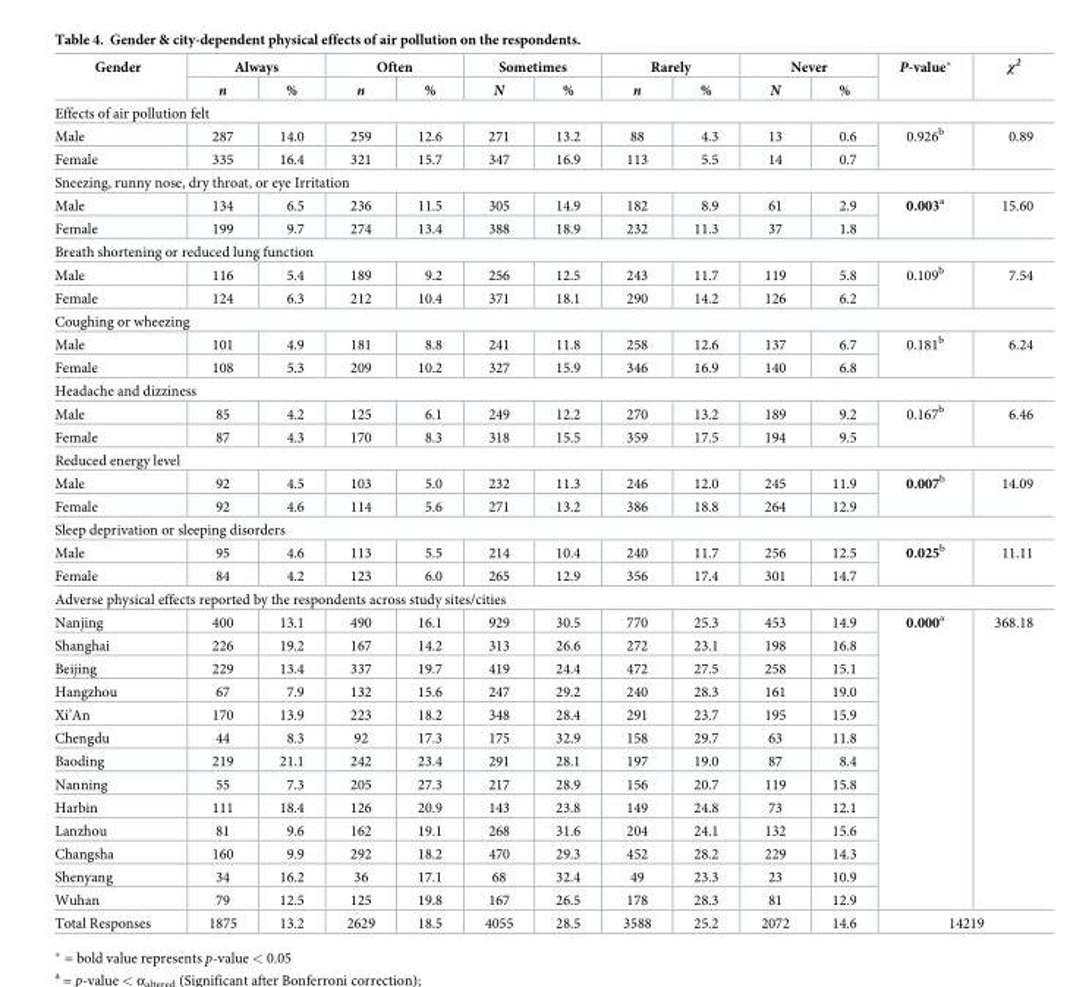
<table><thead><tr><td rowspan="2">Gender</td><td colspan="2">Always</td><td colspan="2">Often</td><td colspan="2">Sometimes</td><td colspan="2">Rarely</td><td colspan="2">Never</td><td rowspan="2">P-value*</td><td rowspan="2">χ<sup>2</sup></td></tr><tr><td>n</td><td>%</td><td>n</td><td>%</td><td>N</td><td>%</td><td>n</td><td>%</td><td>N</td><td>%</td></tr></thead><tbody><tr><td colspan="13">Effects of air pollution felt</td></tr><tr><td>Male</td><td>287</td><td>14.0</td><td>259</td><td>12.6</td><td>271</td><td>13.2</td><td>88</td><td>4.3</td><td>13</td><td>0.6</td><td rowspan="2">0.926<sup>b</sup></td><td rowspan="2">0.89</td></tr><tr><td>Female</td><td>335</td><td>16.4</td><td>321</td><td>15.7</td><td>347</td><td>16.9</td><td>113</td><td>5.5</td><td>14</td><td>0.7</td></tr><tr><td colspan="13">Sneezing, runny nose, dry throat, or eye Irritation</td></tr><tr><td>Male</td><td>134</td><td>6.5</td><td>236</td><td>11.5</td><td>305</td><td>14.9</td><td>182</td><td>8.9</td><td>61</td><td>2.9</td><td rowspan="2">0.003<sup>a</sup></td><td rowspan="2">15.60</td></tr><tr><td>Female</td><td>199</td><td>9.7</td><td>274</td><td>13.4</td><td>388</td><td>18.9</td><td>232</td><td>11.3</td><td>37</td><td>1.8</td></tr><tr><td colspan="13">Breath shortening or reduced lung function</td></tr><tr><td>Male</td><td>116</td><td>5.4</td><td>189</td><td>9.2</td><td>256</td><td>12.5</td><td>243</td><td>11.7</td><td>119</td><td>5.8</td><td rowspan="2">0.109<sup>b</sup></td><td rowspan="2">7.54</td></tr><tr><td>Female</td><td>124</td><td>6.3</td><td>212</td><td>10.4</td><td>371</td><td>18.1</td><td>290</td><td>14.2</td><td>126</td><td>6.2</td></tr><tr><td colspan="13">Coughing or wheezing</td></tr><tr><td>Male</td><td>101</td><td>4.9</td><td>181</td><td>8.8</td><td>241</td><td>11.8</td><td>258</td><td>12.6</td><td>137</td><td>6.7</td><td rowspan="2">0.181<sup>b</sup></td><td rowspan="2">6.24</td></tr><tr><td>Female</td><td>108</td><td>5.3</td><td>209</td><td>10.2</td><td>327</td><td>15.9</td><td>346</td><td>16.9</td><td>140</td><td>6.8</td></tr><tr><td colspan="13">Headache and dizziness</td></tr><tr><td>Male</td><td>85</td><td>4.2</td><td>125</td><td>6.1</td><td>249</td><td>12.2</td><td>270</td><td>13.2</td><td>189</td><td>9.2</td><td rowspan="2">0.167<sup>b</sup></td><td rowspan="2">6.46</td></tr><tr><td>Female</td><td>87</td><td>4.3</td><td>170</td><td>8.3</td><td>318</td><td>15.5</td><td>359</td><td>17.5</td><td>194</td><td>9.5</td></tr><tr><td colspan="13">Reduced energy level</td></tr><tr><td>Male</td><td>92</td><td>4.5</td><td>103</td><td>5.0</td><td>232</td><td>11.3</td><td>246</td><td>12.0</td><td>245</td><td>11.9</td><td rowspan="2">0.007<sup>b</sup></td><td rowspan="2">14.09</td></tr><tr><td>Female</td><td>92</td><td>4.6</td><td>114</td><td>5.6</td><td>271</td><td>13.2</td><td>386</td><td>18.8</td><td>264</td><td>12.9</td></tr><tr><td colspan="13">Sleep deprivation or sleeping disorders</td></tr><tr><td>Male</td><td>95</td><td>4.6</td><td>113</td><td>5.5</td><td>214</td><td>10.4</td><td>240</td><td>11.7</td><td>256</td><td>12.5</td><td rowspan="2">0.025<sup>b</sup></td><td rowspan="2">11.11</td></tr><tr><td>Female</td><td>84</td><td>4.2</td><td>123</td><td>6.0</td><td>265</td><td>12.9</td><td>356</td><td>17.4</td><td>301</td><td>14.7</td></tr><tr><td colspan="13">Adverse physical effects reported by the respondents across study sites/cities</td></tr><tr><td>Nanjing</td><td>400</td><td>13.1</td><td>490</td><td>16.1</td><td>929</td><td>30.5</td><td>770</td><td>25.3</td><td>453</td><td>14.9</td><td rowspan="13">0.000<sup>a</sup></td><td rowspan="13">368.18</td></tr><tr><td>Shanghai</td><td>226</td><td>19.2</td><td>167</td><td>14.2</td><td>313</td><td>26.6</td><td>272</td><td>23.1</td><td>198</td><td>16.8</td></tr><tr><td>Beijing</td><td>229</td><td>13.4</td><td>337</td><td>19.7</td><td>419</td><td>24.4</td><td>472</td><td>27.5</td><td>258</td><td>15.1</td></tr><tr><td>Hangzhou</td><td>67</td><td>7.9</td><td>132</td><td>15.6</td><td>247</td><td>29.2</td><td>240</td><td>28.3</td><td>161</td><td>19.0</td></tr><tr><td>Xi’An</td><td>170</td><td>13.9</td><td>223</td><td>18.2</td><td>348</td><td>28.4</td><td>291</td><td>23.7</td><td>195</td><td>15.9</td></tr><tr><td>Chengdu</td><td>44</td><td>8.3</td><td>92</td><td>17.3</td><td>175</td><td>32.9</td><td>158</td><td>29.7</td><td>63</td><td>11.8</td></tr><tr><td>Baoding</td><td>219</td><td>21.1</td><td>242</td><td>23.4</td><td>291</td><td>28.1</td><td>197</td><td>19.0</td><td>87</td><td>8.4</td></tr><tr><td>Nanning</td><td>55</td><td>7.3</td><td>205</td><td>27.3</td><td>217</td><td>28.9</td><td>156</td><td>20.7</td><td>119</td><td>15.8</td></tr><tr><td>Harbin</td><td>111</td><td>18.4</td><td>126</td><td>20.9</td><td>143</td><td>23.8</td><td>149</td><td>24.8</td><td>73</td><td>12.1</td></tr><tr><td>Lanzhou</td><td>81</td><td>9.6</td><td>162</td><td>19.1</td><td>268</td><td>31.6</td><td>204</td><td>24.1</td><td>132</td><td>15.6</td></tr><tr><td>Changsha</td><td>160</td><td>9.9</td><td>292</td><td>18.2</td><td>470</td><td>29.3</td><td>452</td><td>28.2</td><td>229</td><td>14.3</td></tr><tr><td>Shenyang</td><td>34</td><td>16.2</td><td>36</td><td>17.1</td><td>68</td><td>32.4</td><td>49</td><td>23.3</td><td>23</td><td>10.9</td></tr><tr><td>Wuhan</td><td>79</td><td>12.5</td><td>125</td><td>19.8</td><td>167</td><td>26.5</td><td>178</td><td>28.3</td><td>81</td><td>12.9</td></tr><tr><td>Total Responses</td><td>1875</td><td>13.2</td><td>2629</td><td>18.5</td><td>4055</td><td>28.5</td><td>3588</td><td>25.2</td><td>2072</td><td>14.6</td><td colspan="2">14219</td></tr></tbody></table>